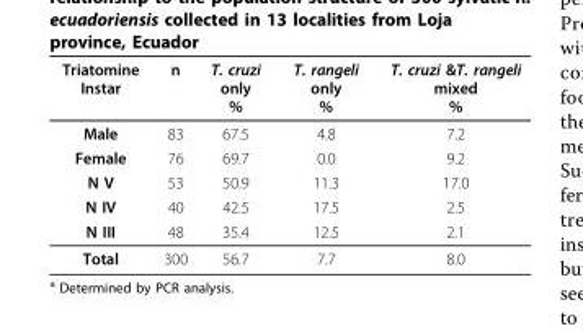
<table><thead><tr><td>Triatomine Instar</td><td>n</td><td>T. cruzi only %</td><td>T. rangeli only %</td><td>T. cruzi &amp;T. rangeli mixed %</td></tr></thead><tbody><tr><td>Male</td><td>83</td><td>67.5</td><td>4.8</td><td>7.2</td></tr><tr><td>Female</td><td>76</td><td>69.7</td><td>0.0</td><td>9.2</td></tr><tr><td>N V</td><td>53</td><td>50.9</td><td>11.3</td><td>17.0</td></tr><tr><td>N IV</td><td>40</td><td>42.5</td><td>17.5</td><td>2.5</td></tr><tr><td>N III</td><td>48</td><td>35.4</td><td>12.5</td><td>2.1</td></tr><tr><td>Total</td><td>300</td><td>56.7</td><td>7.7</td><td>8.0</td></tr></tbody></table>